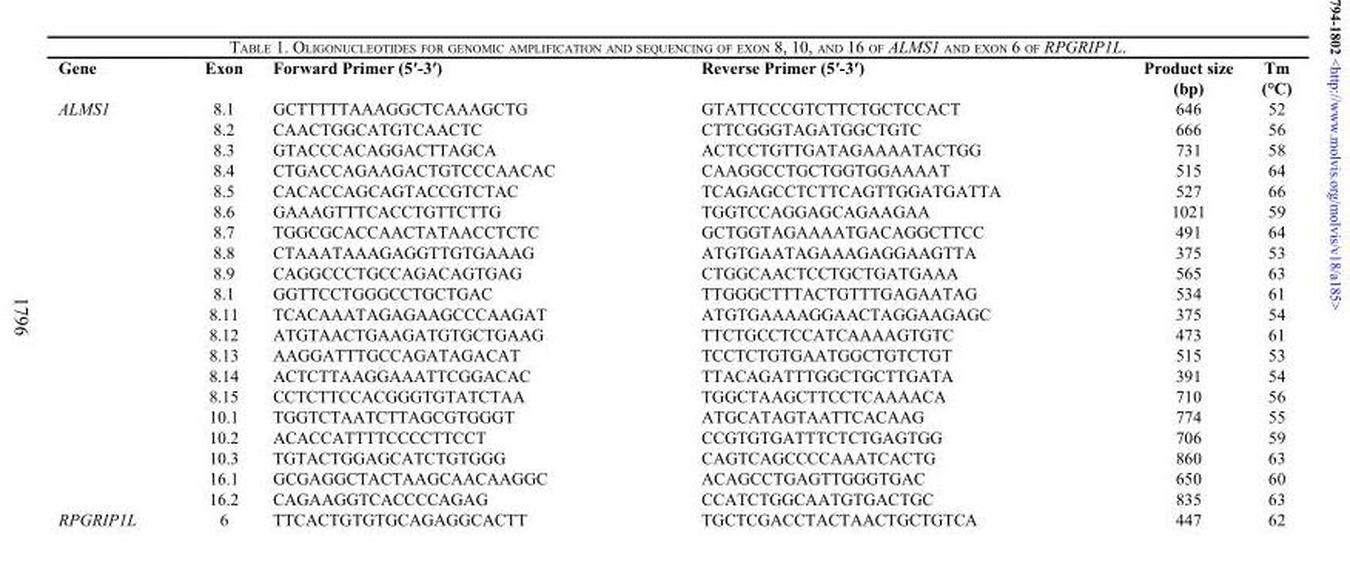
<table><thead><tr><td>Gene</td><td>Exon</td><td>Forward Primer (5′-3′)</td><td>Reverse Primer (5′-3′)</td><td>Product size (bp)</td><td>Tm (°C)</td></tr></thead><tbody><tr><td rowspan="20">ALMS1</td><td>8.1</td><td>GCTTTTTAAAGGCTCAAAGCTG</td><td>GTATTCCCGTCTTCTGCTCCACT</td><td>646</td><td>52</td></tr><tr><td>8.2</td><td>CAACTGGCATGTCAACTC</td><td>CTTCGGGTAGATGGCTGTC</td><td>666</td><td>56</td></tr><tr><td>8.3</td><td>GTACCCACAGGACTTAGCA</td><td>ACTCCTGTTGATAGAAAATACTGG</td><td>731</td><td>58</td></tr><tr><td>8.4</td><td>CTGACCAGAAGACTGTCCCAACAC</td><td>CAAGGCCTGCTGGTGGAAAAT</td><td>515</td><td>64</td></tr><tr><td>8.5</td><td>CACACCAGCAGTACCGTCTAC</td><td>TCAGAGCCTCTTCAGTTGGATGATTA</td><td>527</td><td>66</td></tr><tr><td>8.6</td><td>GAAAGTTTCACCTGTTCTTG</td><td>TGGTCCAGGAGCAGAAGAA</td><td>1021</td><td>59</td></tr><tr><td>8.7</td><td>TGGCGCACCAACTATAACCTCTC</td><td>GCTGGTAGAAAATGACAGGCTTCC</td><td>491</td><td>64</td></tr><tr><td>8.8</td><td>CTAAATAAAGAGGTTGTGAAAG</td><td>ATGTGAATAGAAAGAGGAAGTTA</td><td>375</td><td>53</td></tr><tr><td>8.9</td><td>CAGGCCCTGCCAGACAGTGAG</td><td>CTGGCAACTCCTGCTGATGAAA</td><td>565</td><td>63</td></tr><tr><td>8.1</td><td>GGTTCCTGGGCCTGCTGAC</td><td>TTGGGCTTTACTGTTTGAGAATAG</td><td>534</td><td>61</td></tr><tr><td>8.11</td><td>TCACAAATAGAGAAGCCCAAGAT</td><td>ATGTGAAAAGGAACTAGGAAGAGC</td><td>375</td><td>54</td></tr><tr><td>8.12</td><td>ATGTAACTGAAGATGTGCTGAAG</td><td>TTCTGCCTCCATCAAAAGTGTC</td><td>473</td><td>61</td></tr><tr><td>8.13</td><td>AAGGATTTGCCAGATAGACAT</td><td>TCCTCTGTGAATGGCTGTCTGT</td><td>515</td><td>53</td></tr><tr><td>8.14</td><td>ACTCTTAAGGAAATTCGGACAC</td><td>TTACAGATTTGGCTGCTTGATA</td><td>391</td><td>54</td></tr><tr><td>8.15</td><td>CCTCTTCCACGGGTGTATCTAA</td><td>TGGCTAAGCTTCCTCAAAACA</td><td>710</td><td>56</td></tr><tr><td>10.1</td><td>TGGTCTAATCTTAGCGTGGGT</td><td>ATGCATAGTAATTCACAAG</td><td>774</td><td>55</td></tr><tr><td>10.2</td><td>ACACCATTTTCCCCTTCCT</td><td>CCGTGTGATTTCTCTGAGTGG</td><td>706</td><td>59</td></tr><tr><td>10.3</td><td>TGTACTGGAGCATCTGTGGG</td><td>CAGTCAGCCCCAAATCACTG</td><td>860</td><td>63</td></tr><tr><td>16.1</td><td>GCGAGGCTACTAAGCAACAAGGC</td><td>ACAGCCTGAGTTGGGTGAC</td><td>650</td><td>60</td></tr><tr><td>16.2</td><td>CAGAAGGTCACCCCAGAG</td><td>CCATCTGGCAATGTGACTGC</td><td>835</td><td>63</td></tr><tr><td>RPGRIP1L</td><td>6</td><td>TTCACTGTGTGCAGAGGCACTT</td><td>TGCTCGACCTACTAACTGCTGTCA</td><td>447</td><td>62</td></tr></tbody></table>